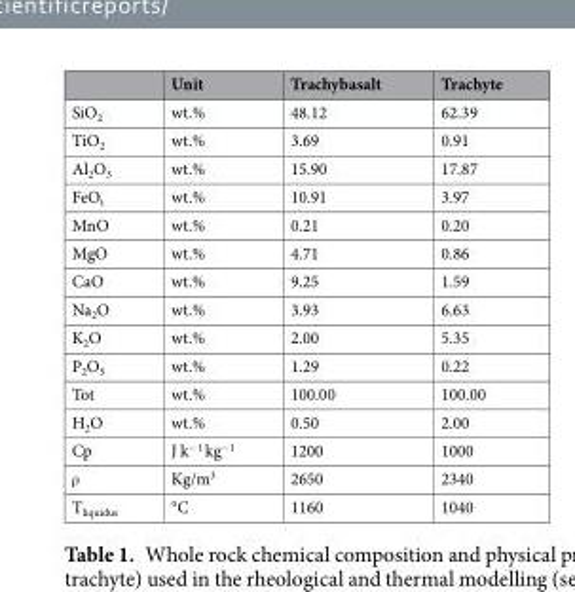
<table><thead><tr><td></td><td>Unit</td><td>Trachybasalt</td><td>Trachyte</td></tr></thead><tbody><tr><td>SiO<sub>2</sub></td><td>wt.%</td><td>48.12</td><td>62.39</td></tr><tr><td>TiO<sub>2</sub></td><td>wt.%</td><td>3.69</td><td>0.91</td></tr><tr><td>Al<sub>2</sub>O<sub>3</sub></td><td>wt.%</td><td>15.90</td><td>17.87</td></tr><tr><td>FeO<sub>t</sub></td><td>wt.%</td><td>10.91</td><td>3.97</td></tr><tr><td>MnO</td><td>wt.%</td><td>0.21</td><td>0.20</td></tr><tr><td>MgO</td><td>wt.%</td><td>4.71</td><td>0.86</td></tr><tr><td>CaO</td><td>wt.%</td><td>9.25</td><td>1.59</td></tr><tr><td>Na<sub>2</sub>O</td><td>wt.%</td><td>3.93</td><td>6.63</td></tr><tr><td>K<sub>2</sub>O</td><td>wt.%</td><td>2.00</td><td>5.35</td></tr><tr><td>P<sub>2</sub>O<sub>5</sub></td><td>wt.%</td><td>1.29</td><td>0.22</td></tr><tr><td>Tot</td><td>wt.%</td><td>100.00</td><td>100.00</td></tr><tr><td>H<sub>2</sub>O</td><td>wt.%</td><td>0.50</td><td>2.00</td></tr><tr><td>Cp</td><td>J k<sup>−1</sup> kg<sup>−1</sup></td><td>1200</td><td>1000</td></tr><tr><td>ρ</td><td>Kg/m<sup>3</sup></td><td>2650</td><td>2340</td></tr><tr><td>T<sub>liquidus</sub></td><td>°C</td><td>1160</td><td>1040</td></tr></tbody></table>